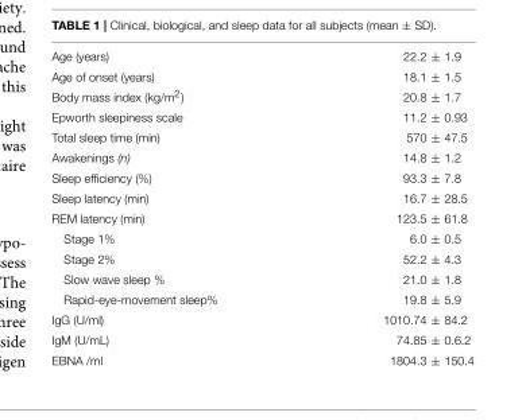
<table><tbody><tr><td>Age (years)</td><td>22.2 ± 1.9</td></tr><tr><td>Age of onset (years)</td><td>18.1 ± 1.5</td></tr><tr><td>Body mass index (kg/m<sup>2</sup>)</td><td>20.8 ± 1.7</td></tr><tr><td>Epworth sleepiness scale</td><td>11.2 ± 0.93</td></tr><tr><td>Total sleep time (min)</td><td>570 ± 47.5</td></tr><tr><td>Awakenings (n)</td><td>14.8 ± 1.2</td></tr><tr><td>Sleep efficiency (%)</td><td>93.3 ± 7.8</td></tr><tr><td>Sleep latency (min)</td><td>16.7 ± 28.5</td></tr><tr><td>REM latency (min)</td><td>123.5 ± 61.8</td></tr><tr><td>Stage 1%</td><td>6.0 ± 0.5</td></tr><tr><td>Stage 2%</td><td>52.2 ± 4.3</td></tr><tr><td>Slow wave sleep %</td><td>21.0 ± 1.8</td></tr><tr><td>Rapid-eye-movement sleep%</td><td>19.8 ± 5.9</td></tr><tr><td>IgG (U/ml)</td><td>1010.74 ± 84.2</td></tr><tr><td>IgM (U/mL)</td><td>74.85 ± 0.6.2</td></tr><tr><td>EBNA /ml</td><td>1804.3 ± 150.4</td></tr></tbody></table>